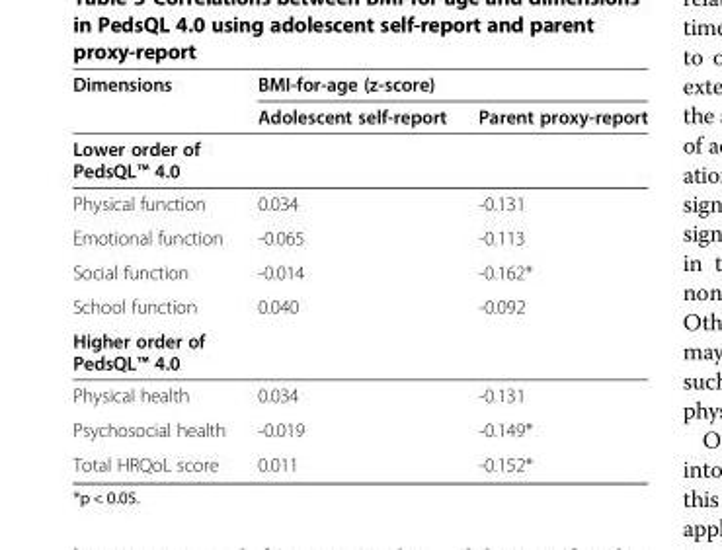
<table><thead><tr><td rowspan="2">Dimensions</td><td colspan="2">BMI-for-age (z-score)</td></tr><tr><td>Adolescent self-report</td><td>Parent proxy-report</td></tr></thead><tbody><tr><td colspan="3">Lower order of PedsQL™ 4.0</td></tr><tr><td>Physical function</td><td>0.034</td><td>-0.131</td></tr><tr><td>Emotional function</td><td>-0.065</td><td>-0.113</td></tr><tr><td>Social function</td><td>-0.014</td><td>-0.162*</td></tr><tr><td>School function</td><td>0.040</td><td>-0.092</td></tr><tr><td colspan="3">Higher order of PedsQL™ 4.0</td></tr><tr><td>Physical health</td><td>0.034</td><td>-0.131</td></tr><tr><td>Psychosocial health</td><td>-0.019</td><td>-0.149*</td></tr><tr><td>Total HRQoL score</td><td>0.011</td><td>-0.152*</td></tr></tbody></table>